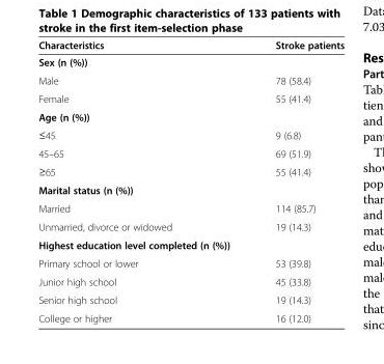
<table><thead><tr><td>Characteristics</td><td>Stroke patients</td></tr></thead><tbody><tr><td colspan="2">Sex (n (%))</td></tr><tr><td>Male</td><td>78 (58.4)</td></tr><tr><td>Female</td><td>55 (41.4)</td></tr><tr><td colspan="2">Age (n (%))</td></tr><tr><td>≤45</td><td>9 (6.8)</td></tr><tr><td>45–65</td><td>69 (51.9)</td></tr><tr><td>≥65</td><td>55 (41.4)</td></tr><tr><td colspan="2">Marital status (n (%))</td></tr><tr><td>Married</td><td>114 (85.7)</td></tr><tr><td>Unmarried, divorce or widowed</td><td>19 (14.3)</td></tr><tr><td colspan="2">Highest education level completed (n (%))</td></tr><tr><td>Primary school or lower</td><td>53 (39.8)</td></tr><tr><td>Junior high school</td><td>45 (33.8)</td></tr><tr><td>Senior high school</td><td>19 (14.3)</td></tr><tr><td>College or higher</td><td>16 (12.0)</td></tr></tbody></table>